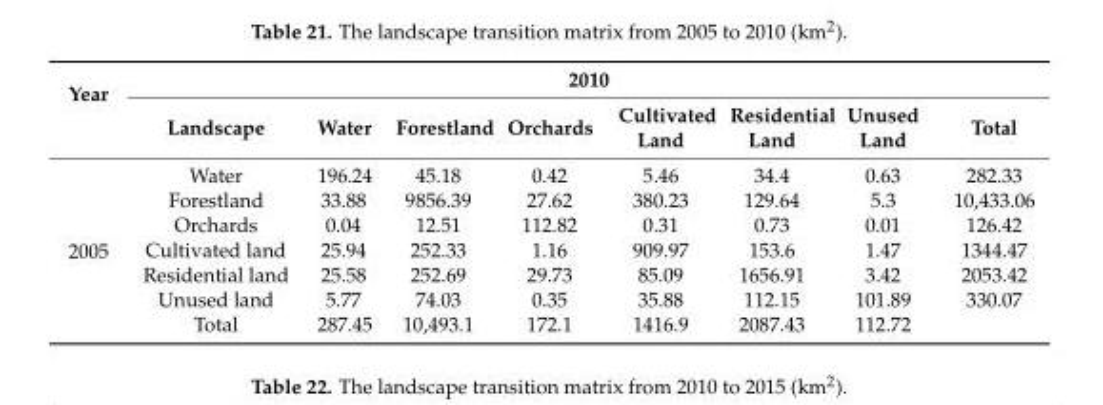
<table><thead><tr><td rowspan="2">Year</td><td colspan="8">2010</td></tr><tr><td>Landscape</td><td>Water</td><td>Forestland</td><td>Orchards</td><td>Cultivated Land</td><td>Residential Land</td><td>Unused Land</td><td>Total</td></tr></thead><tbody><tr><td rowspan="7">2005</td><td>Water</td><td>196.24</td><td>45.18</td><td>0.42</td><td>5.46</td><td>34.4</td><td>0.63</td><td>282.33</td></tr><tr><td>Forestland</td><td>33.88</td><td>9856.39</td><td>27.62</td><td>380.23</td><td>129.64</td><td>5.3</td><td>10,433.06</td></tr><tr><td>Orchards</td><td>0.04</td><td>12.51</td><td>112.82</td><td>0.31</td><td>0.73</td><td>0.01</td><td>126.42</td></tr><tr><td>Cultivated land</td><td>25.94</td><td>252.33</td><td>1.16</td><td>909.97</td><td>153.6</td><td>1.47</td><td>1344.47</td></tr><tr><td>Residential land</td><td>25.58</td><td>252.69</td><td>29.73</td><td>85.09</td><td>1656.91</td><td>3.42</td><td>2053.42</td></tr><tr><td>Unused land</td><td>5.77</td><td>74.03</td><td>0.35</td><td>35.88</td><td>112.15</td><td>101.89</td><td>330.07</td></tr><tr><td>Total</td><td>287.45</td><td>10,493.1</td><td>172.1</td><td>1416.9</td><td>2087.43</td><td>112.72</td><td></td></tr></tbody></table>